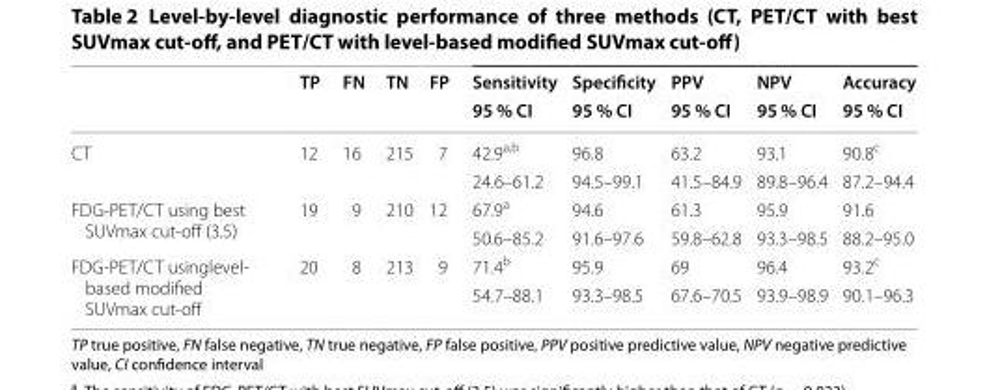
<table><thead><tr><td rowspan="2"></td><td rowspan="2">TP</td><td rowspan="2">FN</td><td rowspan="2">TN</td><td rowspan="2">FP</td><td rowspan="2">Sensitivity 95 % CI</td><td rowspan="2">Specificity 95 % CI</td><td rowspan="2">PPV 95 % CI</td><td rowspan="2">NPV 95 % CI</td><td rowspan="2">Accuracy 95 % CI</td></tr><tr></tr></thead><tbody><tr><td rowspan="2">CT</td><td>12</td><td>16</td><td>215</td><td>7</td><td>42.9<sup>a,b</sup></td><td>96.8</td><td>63.2</td><td>93.1</td><td>90.8<sup>c</sup></td></tr><tr><td></td><td></td><td></td><td></td><td>24.6–61.2</td><td>94.5–99.1</td><td>41.5–84.9</td><td>89.8–96.4</td><td>87.2–94.4</td></tr><tr><td rowspan="2">FDG‑PET/CT using best SUVmax cut‑off (3.5)</td><td>19</td><td>9</td><td>210</td><td>12</td><td>67.9<sup>a</sup></td><td>94.6</td><td>61.3</td><td>95.9</td><td>91.6</td></tr><tr><td></td><td></td><td></td><td></td><td>50.6–85.2</td><td>91.6–97.6</td><td>59.8–62.8</td><td>93.3–98.5</td><td>88.2–95.0</td></tr><tr><td rowspan="2">FDG‑PET/CT usinglevel‑ based modified SUVmax cut‑off</td><td>20</td><td>8</td><td>213</td><td>9</td><td>71.4<sup>b</sup></td><td>95.9</td><td>69</td><td>96.4</td><td>93.2<sup>c</sup></td></tr><tr><td></td><td></td><td></td><td></td><td>54.7–88.1</td><td>93.3–98.5</td><td>67.6–70.5</td><td>93.9–98.9</td><td>90.1–96.3</td></tr></tbody></table>